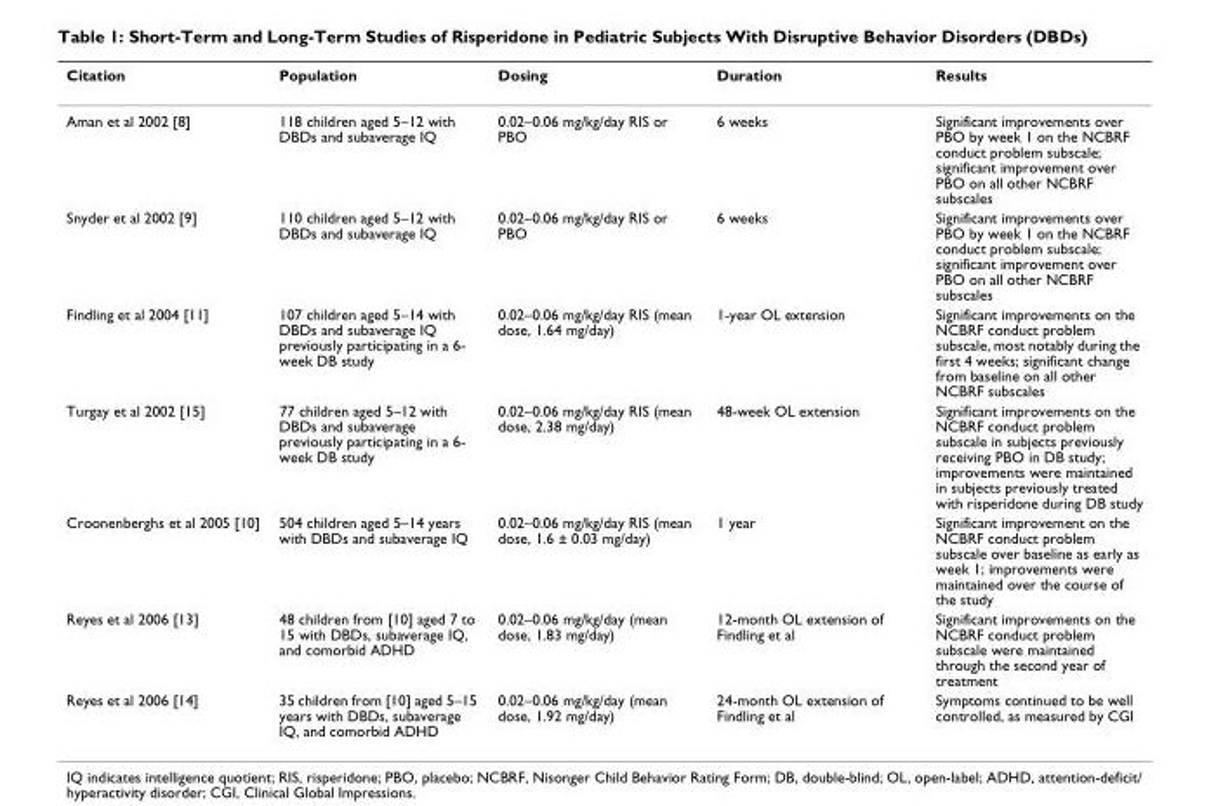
<table><thead><tr><td>Citation</td><td>Population</td><td>Dosing</td><td>Duration</td><td>Results</td></tr></thead><tbody><tr><td>Aman et al 2002 [8]</td><td>118 children aged 5–12 with DBDs and subaverage IQ</td><td>0.02–0.06 mg/kg/day RIS or PBO</td><td>6 weeks</td><td>Significant improvements over PBO by week 1 on the NCBRF conduct problem subscale; significant improvement over PBO on all other NCBRF subscales</td></tr><tr><td>Snyder et al 2002 [9]</td><td>110 children aged 5–12 with DBDs and subaverage IQ</td><td>0.02–0.06 mg/kg/day RIS or PBO</td><td>6 weeks</td><td>Significant improvements over PBO by week 1 on the NCBRF conduct problem subscale; significant improvement over PBO on all other NCBRF subscales</td></tr><tr><td>Findling et al 2004 [11]</td><td>107 children aged 5–14 with DBDs and subaverage IQ previously participating in a 6- week DB study</td><td>0.02–0.06 mg/kg/day RIS (mean dose, 1.64 mg/day)</td><td>1-year OL extension</td><td>Significant improvements on the NCBRF conduct problem subscale, most notably during the first 4 weeks; significant change from baseline on all other NCBRF subscales</td></tr><tr><td>Turgay et al 2002 [15]</td><td>77 children aged 5–12 with DBDs and subaverage previously participating in a 6- week DB study</td><td>0.02–0.06 mg/kg/day RIS (mean dose, 2.38 mg/day)</td><td>48-week OL extension</td><td>Significant improvements on the NCBRF conduct problem subscale in subjects previously receiving PBO in DB study; improvements were maintained in subjects previously treated with risperidone during DB study</td></tr><tr><td>Croonenberghs et al 2005 [10]</td><td>504 children aged 5–14 years with DBDs and subaverage IQ</td><td>0.02–0.06 mg/kg/day RIS (mean dose, 1.6 ± 0.03 mg/day)</td><td>1 year</td><td>Significant improvement on the NCBRF conduct problem subscale over baseline as early as week 1; improvements were maintained over the course of the study</td></tr><tr><td>Reyes et al 2006 [13]</td><td>48 children from [10] aged 7 to 15 with DBDs, subaverage IQ, and comorbid ADHD</td><td>0.02–0.06 mg/kg/day (mean dose, 1.83 mg/day)</td><td>12-month OL extension of Findling et al</td><td>Significant improvements on the NCBRF conduct problem subscale were maintained through the second year of treatment</td></tr><tr><td>Reyes et al 2006 [14]</td><td>35 children from [10] aged 5–15 years with DBDs, subaverage IQ, and comorbid ADHD</td><td>0.02–0.06 mg/kg/day (mean dose, 1.92 mg/day)</td><td>24-month OL extension of Findling et al</td><td>Symptoms continued to be well controlled, as measured by CGI</td></tr></tbody></table>